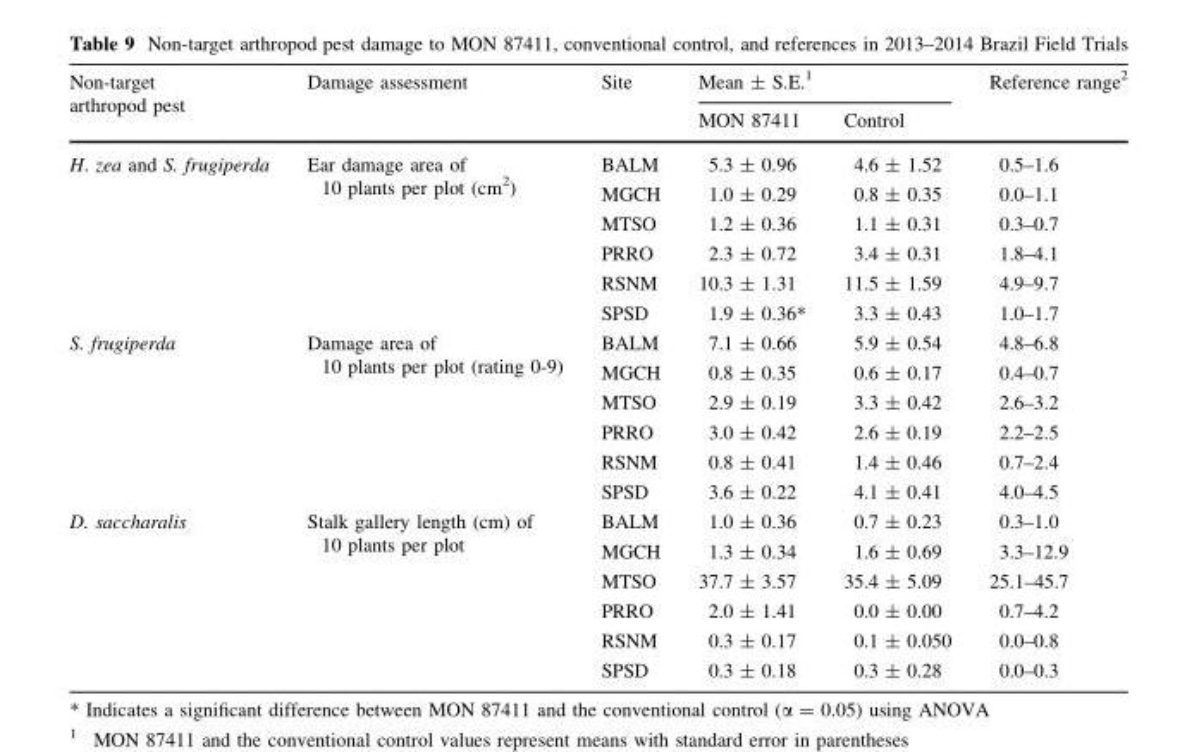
<table><thead><tr><td rowspan="2">Non-target arthropod pest</td><td rowspan="2">Damage assessment</td><td rowspan="2">Site</td><td colspan="2">Mean ± S.E.<sup>1</sup></td><td rowspan="2">Reference range<sup>2</sup></td></tr><tr><td>MON 87411</td><td>Control</td></tr></thead><tbody><tr><td rowspan="6">H. zea and S. frugiperda</td><td rowspan="6">Ear damage area of 10 plants per plot (cm<sup>2</sup>)</td><td>BALM</td><td>5.3 ± 0.96</td><td>4.6 ± 1.52</td><td>0.5–1.6</td></tr><tr><td>MGCH</td><td>1.0 ± 0.29</td><td>0.8 ± 0.35</td><td>0.0–1.1</td></tr><tr><td>MTSO</td><td>1.2 ± 0.36</td><td>1.1 ± 0.31</td><td>0.3–0.7</td></tr><tr><td>PRRO</td><td>2.3 ± 0.72</td><td>3.4 ± 0.31</td><td>1.8–4.1</td></tr><tr><td>RSNM</td><td>10.3 ± 1.31</td><td>11.5 ± 1.59</td><td>4.9–9.7</td></tr><tr><td>SPSD</td><td>1.9 ± 0.36*</td><td>3.3 ± 0.43</td><td>1.0–1.7</td></tr><tr><td rowspan="6">S. frugiperda</td><td rowspan="6">Damage area of 10 plants per plot (rating 0-9)</td><td>BALM</td><td>7.1 ± 0.66</td><td>5.9 ± 0.54</td><td>4.8–6.8</td></tr><tr><td>MGCH</td><td>0.8 ± 0.35</td><td>0.6 ± 0.17</td><td>0.4–0.7</td></tr><tr><td>MTSO</td><td>2.9 ± 0.19</td><td>3.3 ± 0.42</td><td>2.6–3.2</td></tr><tr><td>PRRO</td><td>3.0 ± 0.42</td><td>2.6 ± 0.19</td><td>2.2–2.5</td></tr><tr><td>RSNM</td><td>0.8 ± 0.41</td><td>1.4 ± 0.46</td><td>0.7–2.4</td></tr><tr><td>SPSD</td><td>3.6 ± 0.22</td><td>4.1 ± 0.41</td><td>4.0–4.5</td></tr><tr><td rowspan="6">D. saccharalis</td><td rowspan="6">Stalk gallery length (cm) of 10 plants per plot</td><td>BALM</td><td>1.0 ± 0.36</td><td>0.7 ± 0.23</td><td>0.3–1.0</td></tr><tr><td>MGCH</td><td>1.3 ± 0.34</td><td>1.6 ± 0.69</td><td>3.3–12.9</td></tr><tr><td>MTSO</td><td>37.7 ± 3.57</td><td>35.4 ± 5.09</td><td>25.1–45.7</td></tr><tr><td>PRRO</td><td>2.0 ± 1.41</td><td>0.0 ± 0.00</td><td>0.7–4.2</td></tr><tr><td>RSNM</td><td>0.3 ± 0.17</td><td>0.1 ± 0.050</td><td>0.0–0.8</td></tr><tr><td>SPSD</td><td>0.3 ± 0.18</td><td>0.3 ± 0.28</td><td>0.0–0.3</td></tr></tbody></table>